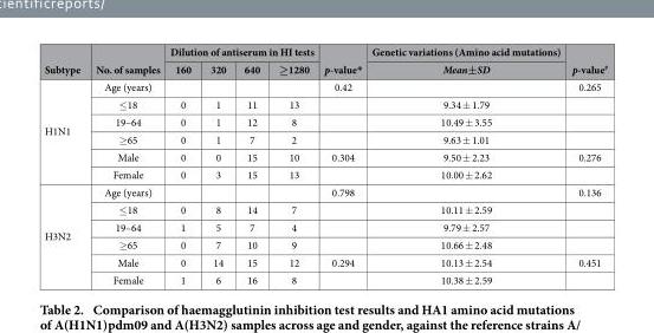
<table><thead><tr><td rowspan="2">Subtype</td><td rowspan="2">No. of samples</td><td colspan="4">Dilution of antiserum in HI tests</td><td rowspan="2">p-value*</td><td rowspan="2">Genetic variations (Amino acid mutations) Mean±SD</td><td rowspan="2">p-value#</td></tr><tr><td>160</td><td>320</td><td>640</td><td>≥1280</td></tr></thead><tbody><tr><td rowspan="6">H1N1</td><td>Age (years)</td><td></td><td></td><td></td><td></td><td>0.42</td><td></td><td>0.265</td></tr><tr><td>≤ 18</td><td>0</td><td>1</td><td>11</td><td>13</td><td></td><td>9.34 ± 1.79</td><td></td></tr><tr><td>19–64</td><td>0</td><td>1</td><td>12</td><td>8</td><td></td><td>10.49 ± 3.55</td><td></td></tr><tr><td>≥ 65</td><td>0</td><td>1</td><td>7</td><td>2</td><td></td><td>9.63 ± 1.01</td><td></td></tr><tr><td>Male</td><td>0</td><td>0</td><td>15</td><td>10</td><td>0.304</td><td>9.50 ± 2.23</td><td>0.276</td></tr><tr><td>Female</td><td>0</td><td>3</td><td>15</td><td>13</td><td></td><td>10.00 ± 2.62</td><td></td></tr><tr><td rowspan="6">H3N2</td><td>Age (years)</td><td></td><td></td><td></td><td></td><td>0.798</td><td></td><td>0.136</td></tr><tr><td>≤ 18</td><td>0</td><td>8</td><td>14</td><td>7</td><td></td><td>10.11 ± 2.59</td><td></td></tr><tr><td>19–64</td><td>1</td><td>5</td><td>7</td><td>4</td><td></td><td>9.79 ± 2.57</td><td></td></tr><tr><td>≥ 65</td><td>0</td><td>7</td><td>10</td><td>9</td><td></td><td>10.66 ± 2.48</td><td></td></tr><tr><td>Male</td><td>0</td><td>14</td><td>15</td><td>12</td><td>0.294</td><td>10.13 ± 2.54</td><td>0.451</td></tr><tr><td>Female</td><td>1</td><td>6</td><td>16</td><td>8</td><td></td><td>10.38 ± 2.59</td><td></td></tr></tbody></table>